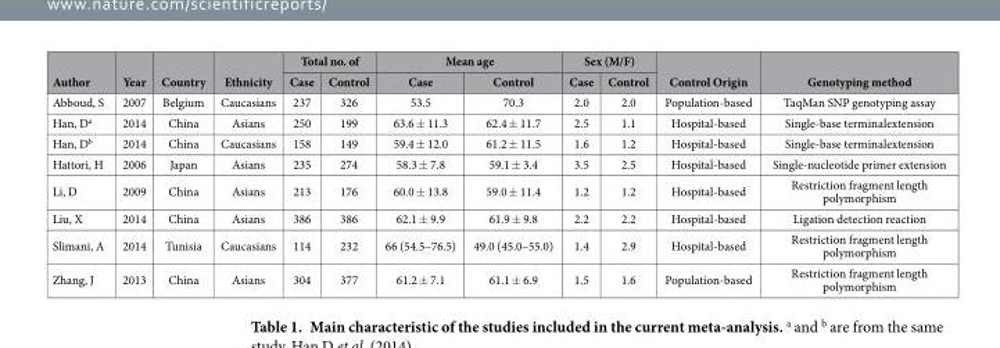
<table><thead><tr><td rowspan="2">Author</td><td rowspan="2">Year</td><td rowspan="2">Country</td><td rowspan="2">Ethnicity</td><td colspan="2">Total no. of</td><td colspan="2">Mean age</td><td colspan="2">Sex (M/F)</td><td rowspan="2">Control Origin</td><td rowspan="2">Genotyping method</td></tr><tr><td>Case</td><td>Control</td><td>Case</td><td>Control</td><td>Case</td><td>Control</td></tr></thead><tbody><tr><td>Abboud, S</td><td>2007</td><td>Belgium</td><td>Caucasians</td><td>237</td><td>326</td><td>53.5</td><td>70.3</td><td>2.0</td><td>2.0</td><td>Population-based</td><td>TaqMan SNP genotyping assay</td></tr><tr><td>Han, D<sup>a</sup></td><td>2014</td><td>China</td><td>Asians</td><td>250</td><td>199</td><td>63.6 ± 11.3</td><td>62.4 ± 11.7</td><td>2.5</td><td>1.1</td><td>Hospital-based</td><td>Single-base terminalextension</td></tr><tr><td>Han, D<sup>b</sup></td><td>2014</td><td>China</td><td>Caucasians</td><td>158</td><td>149</td><td>59.4 ± 12.0</td><td>61.2 ± 11.5</td><td>1.6</td><td>1.2</td><td>Hospital-based</td><td>Single-base terminalextension</td></tr><tr><td>Hattori, H</td><td>2006</td><td>Japan</td><td>Asians</td><td>235</td><td>274</td><td>58.3 ± 7.8</td><td>59.1 ± 3.4</td><td>3.5</td><td>2.5</td><td>Hospital-based</td><td>Single-nucleotide primer extension</td></tr><tr><td>Li, D</td><td>2009</td><td>China</td><td>Asians</td><td>213</td><td>176</td><td>60.0 ± 13.8</td><td>59.0 ± 11.4</td><td>1.2</td><td>1.2</td><td>Hospital-based</td><td>Restriction fragment length polymorphism</td></tr><tr><td>Liu, X</td><td>2014</td><td>China</td><td>Asians</td><td>386</td><td>386</td><td>62.1 ± 9.9</td><td>61.9 ± 9.8</td><td>2.2</td><td>2.2</td><td>Hospital-based</td><td>Ligation detection reaction</td></tr><tr><td>Slimani, A</td><td>2014</td><td>Tunisia</td><td>Caucasians</td><td>114</td><td>232</td><td>66 (54.5–76.5)</td><td>49.0 (45.0–55.0)</td><td>1.4</td><td>2.9</td><td>Hospital-based</td><td>Restriction fragment length polymorphism</td></tr><tr><td>Zhang, J</td><td>2013</td><td>China</td><td>Asians</td><td>304</td><td>377</td><td>61.2 ± 7.1</td><td>61.1 ± 6.9</td><td>1.5</td><td>1.6</td><td>Population-based</td><td>Restriction fragment length polymorphism</td></tr></tbody></table>